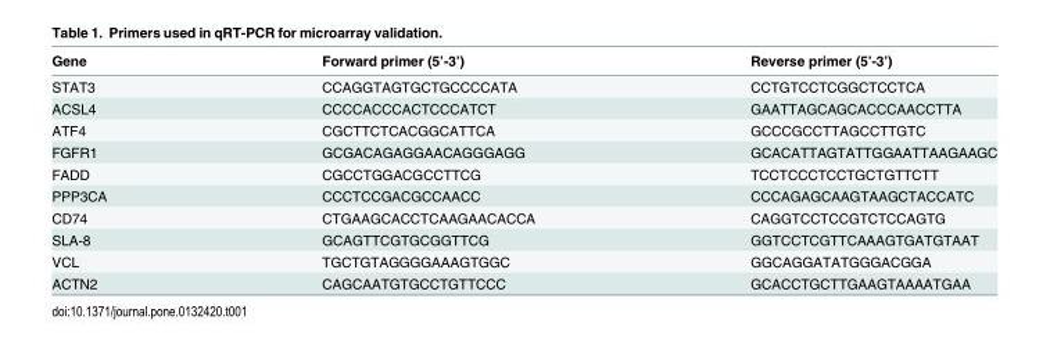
<table><thead><tr><td>Gene</td><td>Forward primer (5’-3’)</td><td>Reverse primer (5’-3’)</td></tr></thead><tbody><tr><td>STAT3</td><td>CCAGGTAGTGCTGCCCCATA</td><td>CCTGTCCTCGGCTCCTCA</td></tr><tr><td>ACSL4</td><td>CCCCACCCACTCCCATCT</td><td>GAATTAGCAGCACCCAACCTTA</td></tr><tr><td>ATF4</td><td>CGCTTCTCACGGCATTCA</td><td>GCCCGCCTTAGCCTTGTC</td></tr><tr><td>FGFR1</td><td>GCGACAGAGGAACAGGGAGG</td><td>GCACATTAGTATTGGAATTAAGAAGC</td></tr><tr><td>FADD</td><td>CGCCTGGACGCCTTCG</td><td>TCCTCCCTCCTGCTGTTCTT</td></tr><tr><td>PPP3CA</td><td>CCCTCCGACGCCAACC</td><td>CCCAGAGCAAGTAAGCTACCATC</td></tr><tr><td>CD74</td><td>CTGAAGCACCTCAAGAACACCA</td><td>CAGGTCCTCCGTCTCCAGTG</td></tr><tr><td>SLA-8</td><td>GCAGTTCGTGCGGTTCG</td><td>GGTCCTCGTTCAAAGTGATGTAAT</td></tr><tr><td>VCL</td><td>TGCTGTAGGGGAAAGTGGC</td><td>GGCAGGATATGGGACGGA</td></tr><tr><td>ACTN2</td><td>CAGCAATGTGCCTGTTCCC</td><td>GCACCTGCTTGAAGTAAAATGAA</td></tr></tbody></table>